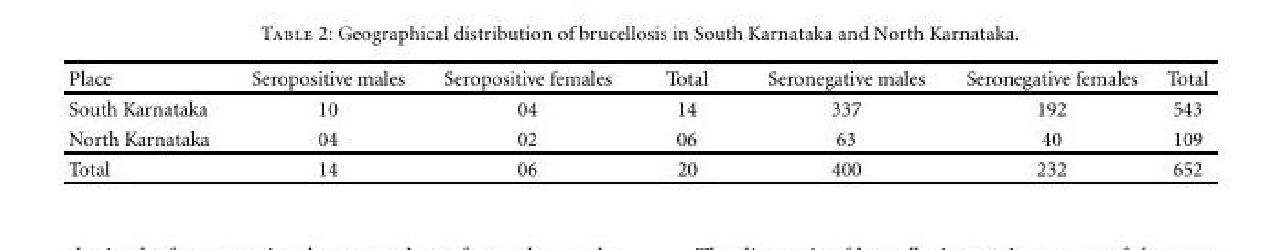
<table><thead><tr><td>Place</td><td>Seropositive males</td><td>Seropositive females</td><td>Total</td><td>Seronegative males</td><td>Seronegative females</td><td>Total</td></tr></thead><tbody><tr><td>South Karnataka</td><td>10</td><td>04</td><td>14</td><td>337</td><td>192</td><td>543</td></tr><tr><td>North Karnataka</td><td>04</td><td>02</td><td>06</td><td>63</td><td>40</td><td>109</td></tr><tr><td>Total</td><td>14</td><td>06</td><td>20</td><td>400</td><td>232</td><td>652</td></tr></tbody></table>